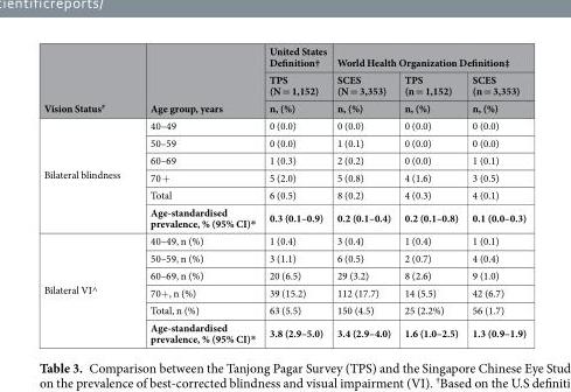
<table><thead><tr><td rowspan="3">Vision Status<sup>#</sup></td><td rowspan="3">Age group, years</td><td rowspan="3">United States Definition† TPS (N = 1,152) n, (%)</td><td colspan="3">World Health Organization Definition‡</td></tr><tr><td rowspan="2">SCES (N = 3,353) n, (%)</td><td rowspan="2">TPS (n = 1,152) n, (%)</td><td rowspan="2">SCES (n = 3,353) n, (%)</td></tr><tr></tr></thead><tbody><tr><td rowspan="6">Bilateral blindness</td><td>40–49</td><td>0 (0.0)</td><td>0 (0.0)</td><td>0 (0.0)</td><td>0 (0.0)</td></tr><tr><td>50–59</td><td>0 (0.0)</td><td>1 (0.1)</td><td>0 (0.0)</td><td>0 (0.0)</td></tr><tr><td>60–69</td><td>1 (0.3)</td><td>2 (0.2)</td><td>0 (0.0)</td><td>1 (0.1)</td></tr><tr><td>70 +</td><td>5 (2.0)</td><td>5 (0.8)</td><td>4 (1.6)</td><td>3 (0.5)</td></tr><tr><td>Total</td><td>6 (0.5)</td><td>8 (0.2)</td><td>4 (0.3)</td><td>4 (0.1)</td></tr><tr><td>Age-standardised prevalence, % (95% CI)*</td><td>0.3 (0.1–0.9)</td><td>0.2 (0.1–0.4)</td><td>0.2 (0.1–0.8)</td><td>0.1 (0.0–0.3)</td></tr><tr><td rowspan="6">Bilateral VI^</td><td>40–49, n (%)</td><td>1 (0.4)</td><td>3 (0.4)</td><td>1 (0.4)</td><td>1 (0.1)</td></tr><tr><td>50–59, n (%)</td><td>3 (1.1)</td><td>6 (0.5)</td><td>2 (0.7)</td><td>4 (0.4)</td></tr><tr><td>60–69, n (%)</td><td>20 (6.5)</td><td>29 (3.2)</td><td>8 (2.6)</td><td>9 (1.0)</td></tr><tr><td>70+, n (%)</td><td>39 (15.2)</td><td>112 (17.7)</td><td>14 (5.5)</td><td>42 (6.7)</td></tr><tr><td>Total, n (%)</td><td>63 (5.5)</td><td>150 (4.5)</td><td>25 (2.2%)</td><td>56 (1.7)</td></tr><tr><td>Age-standardised prevalence, % (95% CI)*</td><td>3.8 (2.9–5.0)</td><td>3.4 (2.9–4.0)</td><td>1.6 (1.0–2.5)</td><td>1.3 (0.9–1.9)</td></tr></tbody></table>